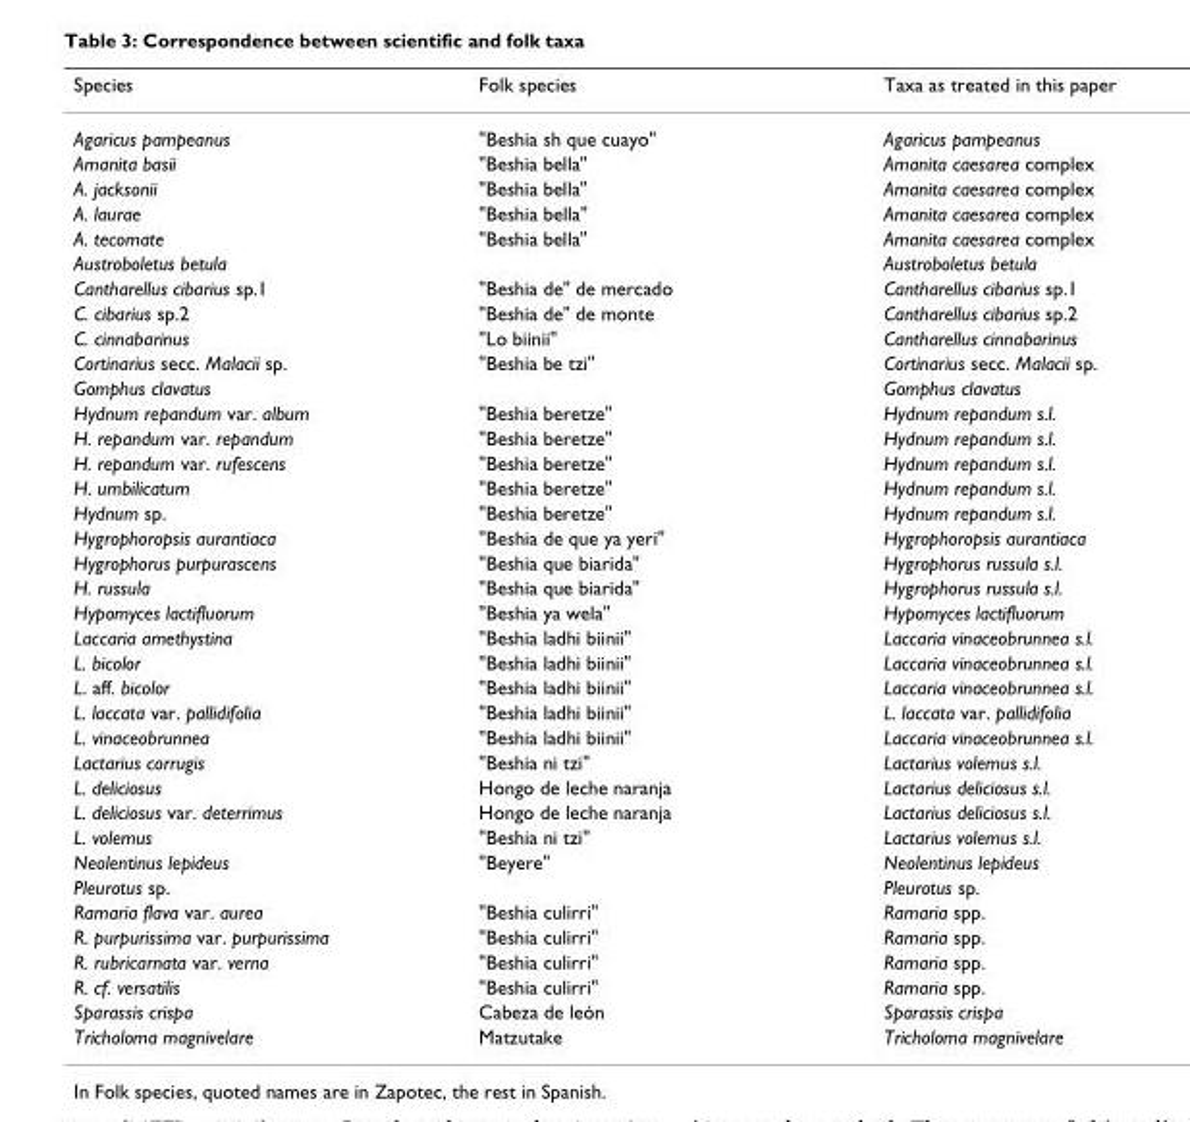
<table><thead><tr><td>Species</td><td>Folk species</td><td>Taxa as treated in this paper</td></tr></thead><tbody><tr><td>Agaricus pampeanus</td><td>&quot;Beshia sh que cuayo&quot;</td><td>Agaricus pampeanus</td></tr><tr><td>Amanita basii</td><td>&quot;Beshia bella&quot;</td><td>Amanita caesarea complex</td></tr><tr><td>A. jacksonii</td><td>&quot;Beshia bella&quot;</td><td>Amanita caesarea complex</td></tr><tr><td>A. laurae</td><td>&quot;Beshia bella&quot;</td><td>Amanita caesarea complex</td></tr><tr><td>A. tecomate</td><td>&quot;Beshia bella&quot;</td><td>Amanita caesarea complex</td></tr><tr><td>Austroboletus betula</td><td></td><td>Austroboletus betula</td></tr><tr><td>Cantharellus cibarius sp.1</td><td>&quot;Beshia de&quot; de mercado</td><td>Cantharellus cibarius sp.1</td></tr><tr><td>C. cibarius sp.2</td><td>&quot;Beshia de&quot; de monte</td><td>Cantharellus cibarius sp.2</td></tr><tr><td>C. cinnabarinus</td><td>&quot;Lo biinii&quot;</td><td>Cantharellus cinnabarinus</td></tr><tr><td>Cortinarius secc. Malacii sp.</td><td>&quot;Beshia be tzi&quot;</td><td>Cortinarius secc. Malacii sp.</td></tr><tr><td>Gomphus clavatus</td><td></td><td>Gomphus clavatus</td></tr><tr><td>Hydnum repandum var. album</td><td>&quot;Beshia beretze&quot;</td><td>Hydnum repandum s.l.</td></tr><tr><td>H. repandum var. repandum</td><td>&quot;Beshia beretze&quot;</td><td>Hydnum repandum s.l.</td></tr><tr><td>H. repandum var. rufescens</td><td>&quot;Beshia beretze&quot;</td><td>Hydnum repandum s.l.</td></tr><tr><td>H. umbilicatum</td><td>&quot;Beshia beretze&quot;</td><td>Hydnum repandum s.l.</td></tr><tr><td>Hydnum sp.</td><td>&quot;Beshia beretze&quot;</td><td>Hydnum repandum s.l.</td></tr><tr><td>Hygrophoropsis aurantiaca</td><td>&quot;Beshia de que ya yeri&quot;</td><td>Hygrophoropsis aurantiaca</td></tr><tr><td>Hygrophorus purpurascens</td><td>&quot;Beshia que biarida&quot;</td><td>Hygrophorus russula s.l.</td></tr><tr><td>H. russula</td><td>&quot;Beshia que biarida&quot;</td><td>Hygrophorus russula s.l.</td></tr><tr><td>Hypomyces lactifluorum</td><td>&quot;Beshia ya wela&quot;</td><td>Hypomyces lactifluorum</td></tr><tr><td>Laccaria amethystina</td><td>&quot;Beshia ladhi biinii&quot;</td><td>Laccaria vinaceobrunnea s.l.</td></tr><tr><td>L. bicolor</td><td>&quot;Beshia ladhi biinii&quot;</td><td>Laccaria vinaceobrunnea s.l.</td></tr><tr><td>L. aff. bicolor</td><td>&quot;Beshia ladhi biinii&quot;</td><td>Laccaria vinaceobrunnea s.l.</td></tr><tr><td>L. laccata var. pallidifolia</td><td>&quot;Beshia ladhi biinii&quot;</td><td>L. laccata var. pallidifolia</td></tr><tr><td>L. vinaceobrunnea</td><td>&quot;Beshia ladhi biinii&quot;</td><td>Laccaria vinaceobrunnea s.l.</td></tr><tr><td>Lactarius corrugis</td><td>&quot;Beshia ni tzi&quot;</td><td>Lactarius volemus s.l.</td></tr><tr><td>L. deliciosus</td><td>Hongo de leche naranja</td><td>Lactarius deliciosus s.l.</td></tr><tr><td>L. deliciosus var. deterrimus</td><td>Hongo de leche naranja</td><td>Lactarius deliciosus s.l.</td></tr><tr><td>L. volemus</td><td>&quot;Beshia ni tzi&quot;</td><td>Lactarius volemus s.l.</td></tr><tr><td>Neolentinus lepideus</td><td>&quot;Beyere&quot;</td><td>Neolentinus lepideus</td></tr><tr><td>Pleurotus sp.</td><td></td><td>Pleurotus sp.</td></tr><tr><td>Ramaria flava var. aurea</td><td>&quot;Beshia culirri&quot;</td><td>Ramaria spp.</td></tr><tr><td>R. purpurissima var. purpurissima</td><td>&quot;Beshia culirri&quot;</td><td>Ramaria spp.</td></tr><tr><td>R. rubricarnata var. verna</td><td>&quot;Beshia culirri&quot;</td><td>Ramaria spp.</td></tr><tr><td>R. cf. versatilis</td><td>&quot;Beshia culirri&quot;</td><td>Ramaria spp.</td></tr><tr><td>Sparassis crispa</td><td>Cabeza de león</td><td>Sparassis crispa</td></tr><tr><td>Tricholoma magnivelare</td><td>Matzutake</td><td>Tricholoma magnivelare</td></tr></tbody></table>